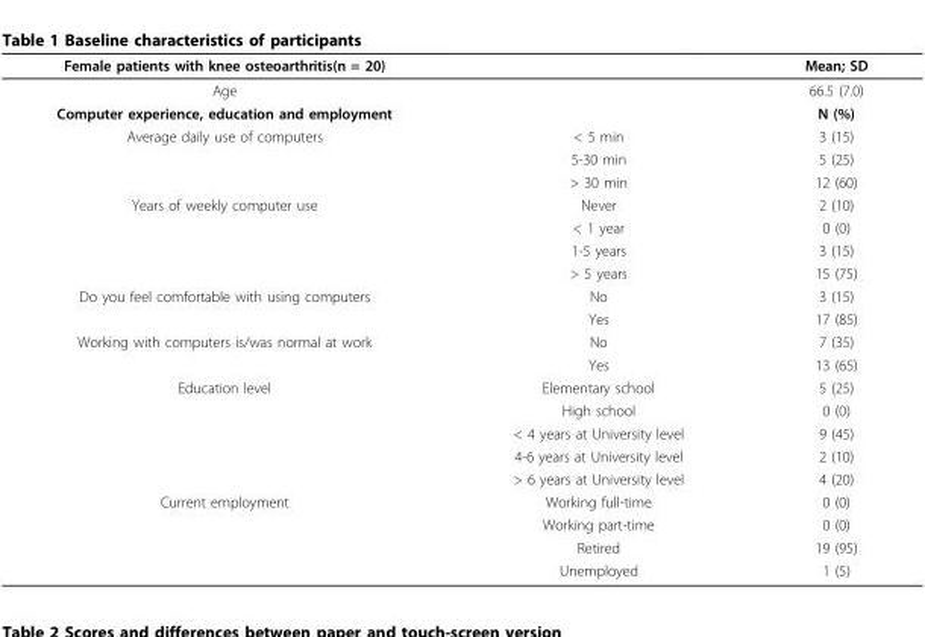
<table><thead><tr><td>Female patients with knee osteoarthritis(n = 20)</td><td></td><td>Mean; SD</td></tr></thead><tbody><tr><td>Age</td><td></td><td>66.5 (7.0)</td></tr><tr><td>Computer experience, education and employment</td><td></td><td>N (%)</td></tr><tr><td rowspan="3">Average daily use of computers</td><td>&lt; 5 min</td><td>3 (15)</td></tr><tr><td>5-30 min</td><td>5 (25)</td></tr><tr><td>&gt; 30 min</td><td>12 (60)</td></tr><tr><td rowspan="4">Years of weekly computer use</td><td>Never</td><td>2 (10)</td></tr><tr><td>&lt; 1 year</td><td>0 (0)</td></tr><tr><td>1-5 years</td><td>3 (15)</td></tr><tr><td>&gt; 5 years</td><td>15 (75)</td></tr><tr><td rowspan="2">Do you feel comfortable with using computers</td><td>No</td><td>3 (15)</td></tr><tr><td>Yes</td><td>17 (85)</td></tr><tr><td rowspan="2">Working with computers is/was normal at work</td><td>No</td><td>7 (35)</td></tr><tr><td>Yes</td><td>13 (65)</td></tr><tr><td rowspan="5">Education level</td><td>Elementary school</td><td>5 (25)</td></tr><tr><td>High school</td><td>0 (0)</td></tr><tr><td>&lt; 4 years at University level</td><td>9 (45)</td></tr><tr><td>4-6 years at University level</td><td>2 (10)</td></tr><tr><td>&gt; 6 years at University level</td><td>4 (20)</td></tr><tr><td rowspan="4">Current employment</td><td>Working full-time</td><td>0 (0)</td></tr><tr><td>Working part-time</td><td>0 (0)</td></tr><tr><td>Retired</td><td>19 (95)</td></tr><tr><td>Unemployed</td><td>1 (5)</td></tr></tbody></table>